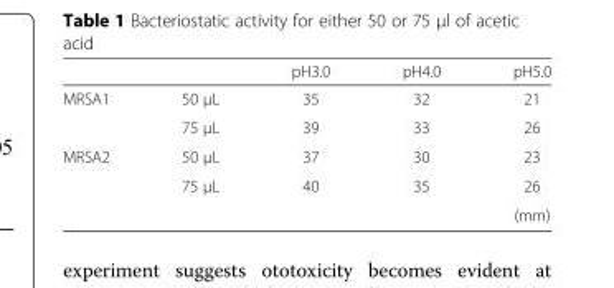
<table><thead><tr><td></td><td></td><td>pH3.0</td><td>pH4.0</td><td>pH5.0</td></tr></thead><tbody><tr><td rowspan="2">MRSA1</td><td>50 μL</td><td>35</td><td>32</td><td>21</td></tr><tr><td>75 μL</td><td>39</td><td>33</td><td>26</td></tr><tr><td rowspan="3">MRSA2</td><td>50 μL</td><td>37</td><td>30</td><td>23</td></tr><tr><td>75 μL</td><td>40</td><td>35</td><td>26</td></tr><tr><td></td><td></td><td></td><td>(mm)</td></tr></tbody></table>